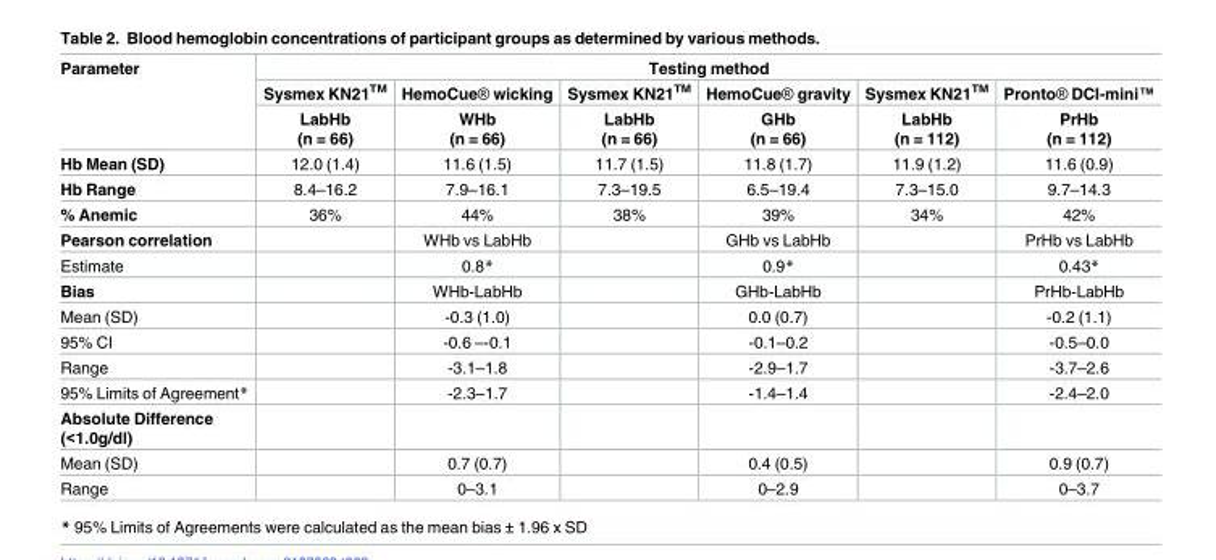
<table><thead><tr><td rowspan="3">Parameter</td><td colspan="6">Testing method</td></tr><tr><td rowspan="2">Sysmex KN21<sup>TM</sup> LabHb (n = 66)</td><td rowspan="2">HemoCue® wicking WHb (n = 66)</td><td rowspan="2">Sysmex KN21<sup>TM</sup> LabHb (n = 66)</td><td rowspan="2">HemoCue® gravity GHb (n = 66)</td><td rowspan="2">Sysmex KN21<sup>TM</sup> LabHb (n = 112)</td><td rowspan="2">Pronto® DCI-mini™ PrHb (n = 112)</td></tr><tr></tr></thead><tbody><tr><td>Hb Mean (SD)</td><td>12.0 (1.4)</td><td>11.6 (1.5)</td><td>11.7 (1.5)</td><td>11.8 (1.7)</td><td>11.9 (1.2)</td><td>11.6 (0.9)</td></tr><tr><td>Hb Range</td><td>8.4–16.2</td><td>7.9–16.1</td><td>7.3–19.5</td><td>6.5–19.4</td><td>7.3–15.0</td><td>9.7–14.3</td></tr><tr><td>% Anemic</td><td>36%</td><td>44%</td><td>38%</td><td>39%</td><td>34%</td><td>42%</td></tr><tr><td>Pearson correlation</td><td></td><td>WHb vs LabHb</td><td></td><td>GHb vs LabHb</td><td></td><td>PrHb vs LabHb</td></tr><tr><td>Estimate</td><td></td><td>0.8*</td><td></td><td>0.9*</td><td></td><td>0.43*</td></tr><tr><td>Bias</td><td></td><td>WHb-LabHb</td><td></td><td>GHb-LabHb</td><td></td><td>PrHb-LabHb</td></tr><tr><td>Mean (SD)</td><td></td><td>-0.3 (1.0)</td><td></td><td>0.0 (0.7)</td><td></td><td>-0.2 (1.1)</td></tr><tr><td>95% CI</td><td></td><td>-0.6 –-0.1</td><td></td><td>-0.1–0.2</td><td></td><td>-0.5–0.0</td></tr><tr><td>Range</td><td></td><td>-3.1–1.8</td><td></td><td>-2.9–1.7</td><td></td><td>-3.7–2.6</td></tr><tr><td>95% Limits of Agreement*</td><td></td><td>-2.3–1.7</td><td></td><td>-1.4–1.4</td><td></td><td>-2.4–2.0</td></tr><tr><td colspan="7">Absolute Difference (&lt;1.0g/dl)</td></tr><tr><td>Mean (SD)</td><td></td><td>0.7 (0.7)</td><td></td><td>0.4 (0.5)</td><td></td><td>0.9 (0.7)</td></tr><tr><td>Range</td><td></td><td>0–3.1</td><td></td><td>0–2.9</td><td></td><td>0–3.7</td></tr></tbody></table>